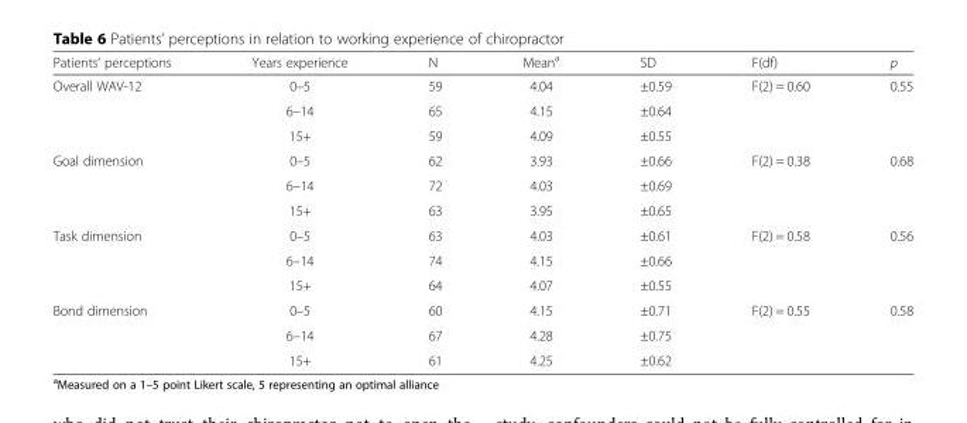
<table><thead><tr><td>Patients’ perceptions</td><td>Years experience</td><td>N</td><td>Mean<sup>a</sup></td><td>SD</td><td>F(df)</td><td>p</td></tr></thead><tbody><tr><td rowspan="3">Overall WAV-12</td><td>0–5</td><td>59</td><td>4.04</td><td>±0.59</td><td>F(2) = 0.60</td><td>0.55</td></tr><tr><td>6–14</td><td>65</td><td>4.15</td><td>±0.64</td><td></td><td></td></tr><tr><td>15+</td><td>59</td><td>4.09</td><td>±0.55</td><td></td><td></td></tr><tr><td rowspan="3">Goal dimension</td><td>0–5</td><td>62</td><td>3.93</td><td>±0.66</td><td>F(2) = 0.38</td><td>0.68</td></tr><tr><td>6–14</td><td>72</td><td>4.03</td><td>±0.69</td><td></td><td></td></tr><tr><td>15+</td><td>63</td><td>3.95</td><td>±0.65</td><td></td><td></td></tr><tr><td rowspan="3">Task dimension</td><td>0–5</td><td>63</td><td>4.03</td><td>±0.61</td><td>F(2) = 0.58</td><td>0.56</td></tr><tr><td>6–14</td><td>74</td><td>4.15</td><td>±0.66</td><td></td><td></td></tr><tr><td>15+</td><td>64</td><td>4.07</td><td>±0.55</td><td></td><td></td></tr><tr><td rowspan="3">Bond dimension</td><td>0–5</td><td>60</td><td>4.15</td><td>±0.71</td><td>F(2) = 0.55</td><td>0.58</td></tr><tr><td>6–14</td><td>67</td><td>4.28</td><td>±0.75</td><td></td><td></td></tr><tr><td>15+</td><td>61</td><td>4.25</td><td>±0.62</td><td></td><td></td></tr></tbody></table>